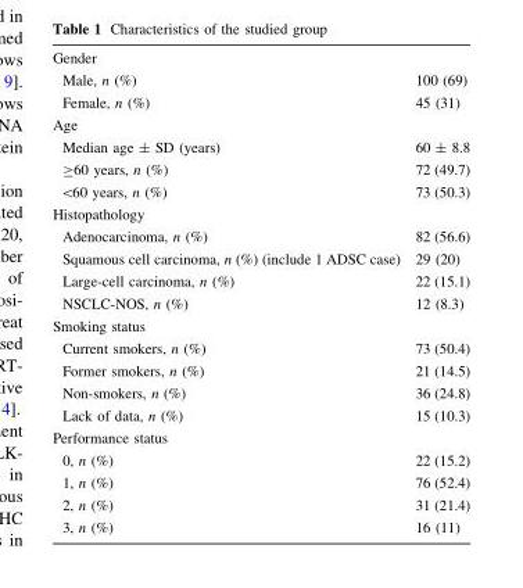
<table><tbody><tr><td colspan="2">Gender</td></tr><tr><td>Male, n (%)</td><td>100 (69)</td></tr><tr><td>Female, n (%)</td><td>45 (31)</td></tr><tr><td colspan="2">Age</td></tr><tr><td>Median age ± SD (years)</td><td>60 ± 8.8</td></tr><tr><td>≥60 years, n (%)</td><td>72 (49.7)</td></tr><tr><td>&lt;60 years, n (%)</td><td>73 (50.3)</td></tr><tr><td colspan="2">Histopathology</td></tr><tr><td>Adenocarcinoma, n (%)</td><td>82 (56.6)</td></tr><tr><td>Squamous cell carcinoma, n (%) (include 1 ADSC case)</td><td>29 (20)</td></tr><tr><td>Large-cell carcinoma, n (%)</td><td>22 (15.1)</td></tr><tr><td>NSCLC-NOS, n (%)</td><td>12 (8.3)</td></tr><tr><td colspan="2">Smoking status</td></tr><tr><td>Current smokers, n (%)</td><td>73 (50.4)</td></tr><tr><td>Former smokers, n (%)</td><td>21 (14.5)</td></tr><tr><td>Non-smokers, n (%)</td><td>36 (24.8)</td></tr><tr><td>Lack of data, n (%)</td><td>15 (10.3)</td></tr><tr><td colspan="2">Performance status</td></tr><tr><td>0, n (%)</td><td>22 (15.2)</td></tr><tr><td>1, n (%)</td><td>76 (52.4)</td></tr><tr><td>2, n (%)</td><td>31 (21.4)</td></tr><tr><td>3, n (%)</td><td>16 (11)</td></tr></tbody></table>